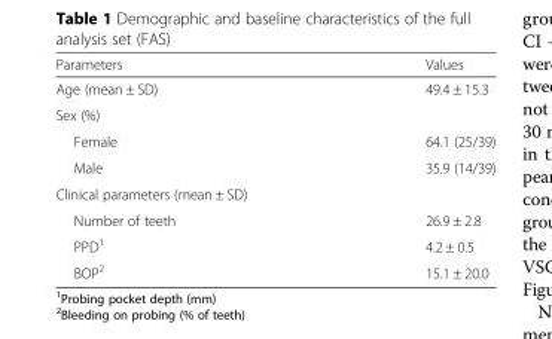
<table><thead><tr><td>Parameters</td><td>Values</td></tr></thead><tbody><tr><td>Age (mean ± SD)</td><td>49.4 ± 15.3</td></tr><tr><td colspan="2">Sex (%)</td></tr><tr><td>Female</td><td>64.1 (25/39)</td></tr><tr><td>Male</td><td>35.9 (14/39)</td></tr><tr><td colspan="2">Clinical parameters (mean ± SD)</td></tr><tr><td>Number of teeth</td><td>26.9 ± 2.8</td></tr><tr><td>PPD<sup>1</sup></td><td>4.2 ± 0.5</td></tr><tr><td>BOP<sup>2</sup></td><td>15.1 ± 20.0</td></tr></tbody></table>